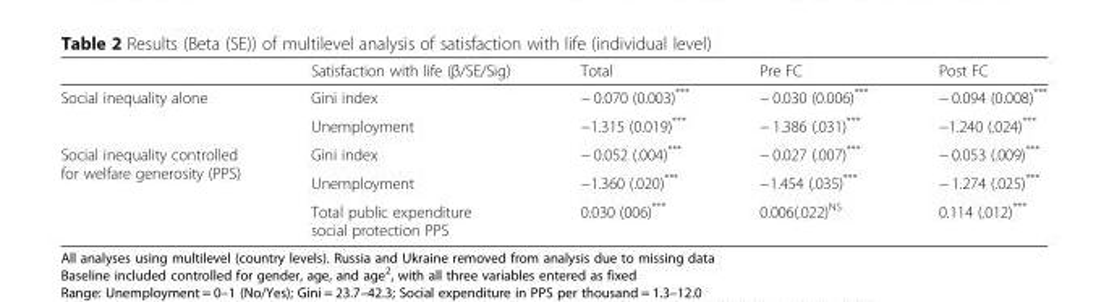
<table><thead><tr><td></td><td>Satisfaction with life (β/SE/Sig)</td><td>Total</td><td>Pre FC</td><td>Post FC</td></tr></thead><tbody><tr><td rowspan="2">Social inequality alone</td><td>Gini index</td><td>− 0.070 (0.003)***</td><td>− 0.030 (0.006)***</td><td>− 0.094 (0.008)***</td></tr><tr><td>Unemployment</td><td>−1.315 (0.019)***</td><td>− 1.386 (.031)***</td><td>−1.240 (.024)***</td></tr><tr><td rowspan="3">Social inequality controlled for welfare generosity (PPS)</td><td>Gini index</td><td>− 0.052 (.004)***</td><td>− 0.027 (.007)***</td><td>− 0.053 (.009)***</td></tr><tr><td>Unemployment</td><td>−1.360 (.020)***</td><td>−1.454 (.035)***</td><td>− 1.274 (.025)***</td></tr><tr><td>Total public expenditure social protection PPS</td><td>0.030 (006)***</td><td>0.006(.022)<sup>NS</sup></td><td>0.114 (.012)***</td></tr></tbody></table>